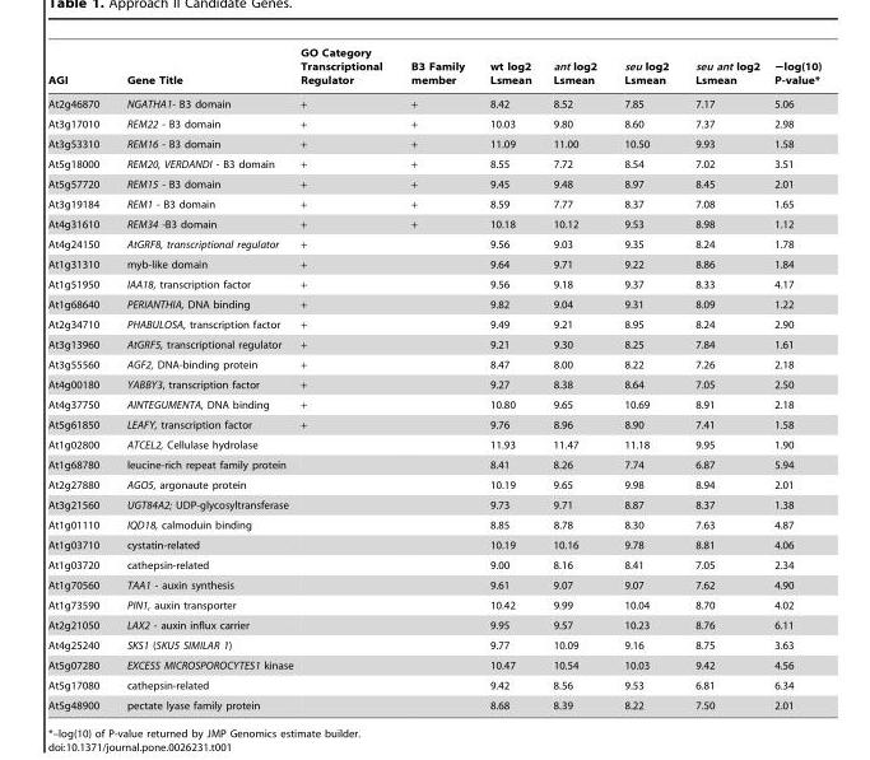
<table><thead><tr><td>AGI</td><td>Gene Title</td><td>GO Category Transcriptional Regulator</td><td>B3 Family member</td><td>wt log2 Lsmean</td><td>ant log2 Lsmean</td><td>seu log2 Lsmean</td><td>seu ant log2 Lsmean</td><td>−log(10) P-value*</td></tr></thead><tbody><tr><td>At2g46870</td><td>NGATHA1- B3 domain</td><td>+</td><td>+</td><td>8.42</td><td>8.52</td><td>7.85</td><td>7.17</td><td>5.06</td></tr><tr><td>At3g17010</td><td>REM22 - B3 domain</td><td>+</td><td>+</td><td>10.03</td><td>9.80</td><td>8.60</td><td>7.37</td><td>2.98</td></tr><tr><td>At3g53310</td><td>REM16 - B3 domain</td><td>+</td><td>+</td><td>11.09</td><td>11.00</td><td>10.50</td><td>9.93</td><td>1.58</td></tr><tr><td>At5g18000</td><td>REM20, VERDANDI - B3 domain</td><td>+</td><td>+</td><td>8.55</td><td>7.72</td><td>8.54</td><td>7.02</td><td>3.51</td></tr><tr><td>At5g57720</td><td>REM15 - B3 domain</td><td>+</td><td>+</td><td>9.45</td><td>9.48</td><td>8.97</td><td>8.45</td><td>2.01</td></tr><tr><td>At3g19184</td><td>REM1 - B3 domain</td><td>+</td><td>+</td><td>8.59</td><td>7.77</td><td>8.37</td><td>7.08</td><td>1.65</td></tr><tr><td>At4g31610</td><td>REM34 -B3 domain</td><td>+</td><td>+</td><td>10.18</td><td>10.12</td><td>9.53</td><td>8.98</td><td>1.12</td></tr><tr><td>At4g24150</td><td>AtGRF8, transcriptional regulator</td><td>+</td><td></td><td>9.56</td><td>9.03</td><td>9.35</td><td>8.24</td><td>1.78</td></tr><tr><td>At1g31310</td><td>myb-like domain</td><td>+</td><td></td><td>9.64</td><td>9.71</td><td>9.22</td><td>8.86</td><td>1.84</td></tr><tr><td>At1g51950</td><td>IAA18, transcription factor</td><td>+</td><td></td><td>9.56</td><td>9.18</td><td>9.37</td><td>8.33</td><td>4.17</td></tr><tr><td>At1g68640</td><td>PERIANTHIA, DNA binding</td><td>+</td><td></td><td>9.82</td><td>9.04</td><td>9.31</td><td>8.09</td><td>1.22</td></tr><tr><td>At2g34710</td><td>PHABULOSA, transcription factor</td><td>+</td><td></td><td>9.49</td><td>9.21</td><td>8.95</td><td>8.24</td><td>2.90</td></tr><tr><td>At3g13960</td><td>AtGRF5, transcriptional regulator</td><td>+</td><td></td><td>9.21</td><td>9.30</td><td>8.25</td><td>7.84</td><td>1.61</td></tr><tr><td>At3g55560</td><td>AGF2, DNA-binding protein</td><td>+</td><td></td><td>8.47</td><td>8.00</td><td>8.22</td><td>7.26</td><td>2.18</td></tr><tr><td>At4g00180</td><td>YABBY3, transcription factor</td><td>+</td><td></td><td>9.27</td><td>8.38</td><td>8.64</td><td>7.05</td><td>2.50</td></tr><tr><td>At4g37750</td><td>AINTEGUMENTA, DNA binding</td><td>+</td><td></td><td>10.80</td><td>9.65</td><td>10.69</td><td>8.91</td><td>2.18</td></tr><tr><td>At5g61850</td><td>LEAFY, transcription factor</td><td>+</td><td></td><td>9.76</td><td>8.96</td><td>8.90</td><td>7.41</td><td>1.58</td></tr><tr><td>At1g02800</td><td>ATCEL2, Cellulase hydrolase</td><td></td><td></td><td>11.93</td><td>11.47</td><td>11.18</td><td>9.95</td><td>1.90</td></tr><tr><td>At1g68780</td><td>leucine-rich repeat family protein</td><td></td><td></td><td>8.41</td><td>8.26</td><td>7.74</td><td>6.87</td><td>5.94</td></tr><tr><td>At2g27880</td><td>AGO5, argonaute protein</td><td></td><td></td><td>10.19</td><td>9.65</td><td>9.98</td><td>8.94</td><td>2.01</td></tr><tr><td>At3g21560</td><td>UGT84A2; UDP-glycosyltransferase</td><td></td><td></td><td>9.73</td><td>9.71</td><td>8.87</td><td>8.37</td><td>1.38</td></tr><tr><td>At1g01110</td><td>IQD18, calmoduin binding</td><td></td><td></td><td>8.85</td><td>8.78</td><td>8.30</td><td>7.63</td><td>4.87</td></tr><tr><td>At1g03710</td><td>cystatin-related</td><td></td><td></td><td>10.19</td><td>10.16</td><td>9.78</td><td>8.81</td><td>4.06</td></tr><tr><td>At1g03720</td><td>cathepsin-related</td><td></td><td></td><td>9.00</td><td>8.16</td><td>8.41</td><td>7.05</td><td>2.34</td></tr><tr><td>At1g70560</td><td>TAA1 - auxin synthesis</td><td></td><td></td><td>9.61</td><td>9.07</td><td>9.07</td><td>7.62</td><td>4.90</td></tr><tr><td>At1g73590</td><td>PIN1, auxin transporter</td><td></td><td></td><td>10.42</td><td>9.99</td><td>10.04</td><td>8.70</td><td>4.02</td></tr><tr><td>At2g21050</td><td>LAX2 - auxin influx carrier</td><td></td><td></td><td>9.95</td><td>9.57</td><td>10.23</td><td>8.76</td><td>6.11</td></tr><tr><td>At4g25240</td><td>SKS1 (SKU5 SIMILAR 1)</td><td></td><td></td><td>9.77</td><td>10.09</td><td>9.16</td><td>8.75</td><td>3.63</td></tr><tr><td>At5g07280</td><td>EXCESS MICROSPOROCYTES1 kinase</td><td></td><td></td><td>10.47</td><td>10.54</td><td>10.03</td><td>9.42</td><td>4.56</td></tr><tr><td>At5g17080</td><td>cathepsin-related</td><td></td><td></td><td>9.42</td><td>8.56</td><td>9.53</td><td>6.81</td><td>6.34</td></tr><tr><td>At5g48900</td><td>pectate lyase family protein</td><td></td><td></td><td>8.68</td><td>8.39</td><td>8.22</td><td>7.50</td><td>2.01</td></tr></tbody></table>